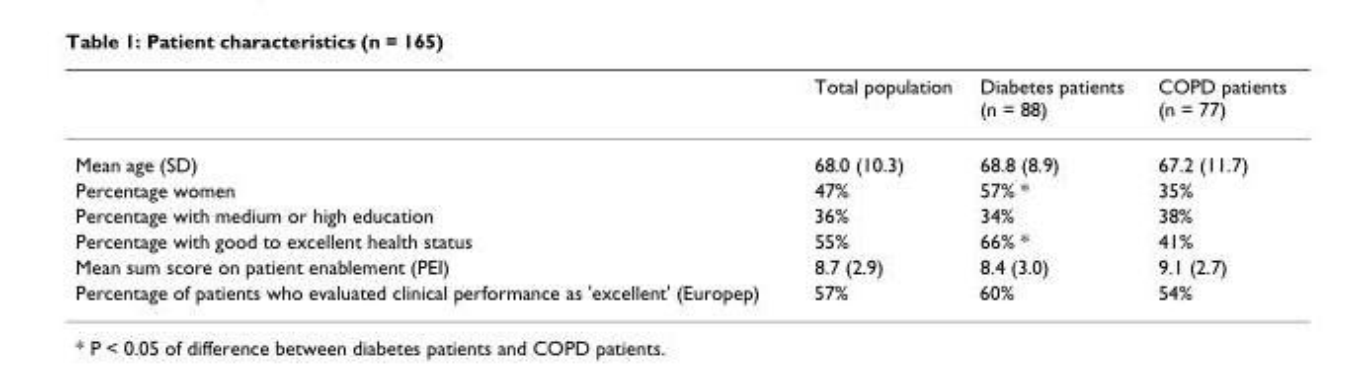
<table><thead><tr><td></td><td>Total population</td><td>Diabetes patients (n = 88)</td><td>COPD patients (n = 77)</td></tr></thead><tbody><tr><td>Mean age (SD)</td><td>68.0 (10.3)</td><td>68.8 (8.9)</td><td>67.2 (11.7)</td></tr><tr><td>Percentage women</td><td>47%</td><td>57% *</td><td>35%</td></tr><tr><td>Percentage with medium or high education</td><td>36%</td><td>34%</td><td>38%</td></tr><tr><td>Percentage with good to excellent health status</td><td>55%</td><td>66% *</td><td>41%</td></tr><tr><td>Mean sum score on patient enablement (PEI)</td><td>8.7 (2.9)</td><td>8.4 (3.0)</td><td>9.1 (2.7)</td></tr><tr><td>Percentage of patients who evaluated clinical performance as &#x27;excellent&#x27; (Europep)</td><td>57%</td><td>60%</td><td>54%</td></tr></tbody></table>